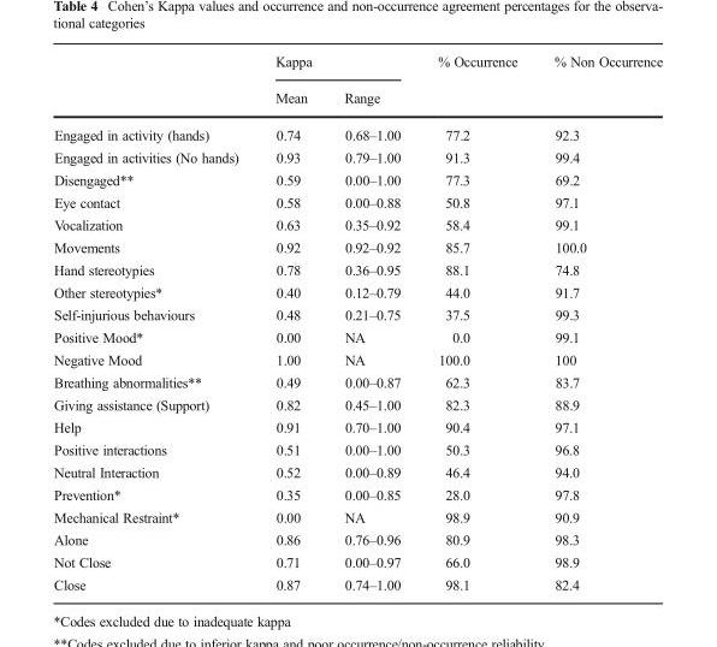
<table><thead><tr><td rowspan="2"></td><td colspan="2">Kappa</td><td rowspan="2">% Occurrence</td><td rowspan="2">% Non Occurrence</td></tr><tr><td>Mean</td><td>Range</td></tr></thead><tbody><tr><td>Engaged in activity (hands)</td><td>0.74</td><td>0.68–1.00</td><td>77.2</td><td>92.3</td></tr><tr><td>Engaged in activities (No hands)</td><td>0.93</td><td>0.79–1.00</td><td>91.3</td><td>99.4</td></tr><tr><td>Disengaged**</td><td>0.59</td><td>0.00–1.00</td><td>77.3</td><td>69.2</td></tr><tr><td>Eye contact</td><td>0.58</td><td>0.00–0.88</td><td>50.8</td><td>97.1</td></tr><tr><td>Vocalization</td><td>0.63</td><td>0.35–0.92</td><td>58.4</td><td>99.1</td></tr><tr><td>Movements</td><td>0.92</td><td>0.92–0.92</td><td>85.7</td><td>100.0</td></tr><tr><td>Hand stereotypies</td><td>0.78</td><td>0.36–0.95</td><td>88.1</td><td>74.8</td></tr><tr><td>Other stereotypies*</td><td>0.40</td><td>0.12–0.79</td><td>44.0</td><td>91.7</td></tr><tr><td>Self-injurious behaviours</td><td>0.48</td><td>0.21–0.75</td><td>37.5</td><td>99.3</td></tr><tr><td>Positive Mood*</td><td>0.00</td><td>NA</td><td>0.0</td><td>99.1</td></tr><tr><td>Negative Mood</td><td>1.00</td><td>NA</td><td>100.0</td><td>100</td></tr><tr><td>Breathing abnormalities**</td><td>0.49</td><td>0.00–0.87</td><td>62.3</td><td>83.7</td></tr><tr><td>Giving assistance (Support)</td><td>0.82</td><td>0.45–1.00</td><td>82.3</td><td>88.9</td></tr><tr><td>Help</td><td>0.91</td><td>0.70–1.00</td><td>90.4</td><td>97.1</td></tr><tr><td>Positive interactions</td><td>0.51</td><td>0.00–1.00</td><td>50.3</td><td>96.8</td></tr><tr><td>Neutral Interaction</td><td>0.52</td><td>0.00–0.89</td><td>46.4</td><td>94.0</td></tr><tr><td>Prevention*</td><td>0.35</td><td>0.00–0.85</td><td>28.0</td><td>97.8</td></tr><tr><td>Mechanical Restraint*</td><td>0.00</td><td>NA</td><td>98.9</td><td>90.9</td></tr><tr><td>Alone</td><td>0.86</td><td>0.76–0.96</td><td>80.9</td><td>98.3</td></tr><tr><td>Not Close</td><td>0.71</td><td>0.00–0.97</td><td>66.0</td><td>98.9</td></tr><tr><td>Close</td><td>0.87</td><td>0.74–1.00</td><td>98.1</td><td>82.4</td></tr></tbody></table>